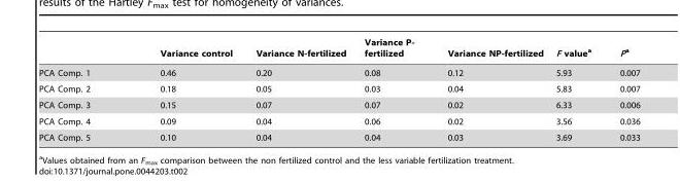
<table><thead><tr><td></td><td>Variance control</td><td>Variance N-fertilized</td><td>Variance P- fertilized</td><td>Variance NP-fertilized</td><td>F value<sup>a</sup></td><td>Pa</td></tr></thead><tbody><tr><td>PCA Comp. 1</td><td>0.46</td><td>0.20</td><td>0.08</td><td>0.12</td><td>5.93</td><td>0.007</td></tr><tr><td>PCA Comp. 2</td><td>0.18</td><td>0.05</td><td>0.03</td><td>0.04</td><td>5.83</td><td>0.007</td></tr><tr><td>PCA Comp. 3</td><td>0.15</td><td>0.07</td><td>0.07</td><td>0.02</td><td>6.33</td><td>0.006</td></tr><tr><td>PCA Comp. 4</td><td>0.09</td><td>0.04</td><td>0.06</td><td>0.02</td><td>3.56</td><td>0.036</td></tr><tr><td>PCA Comp. 5</td><td>0.10</td><td>0.04</td><td>0.04</td><td>0.03</td><td>3.69</td><td>0.033</td></tr></tbody></table>